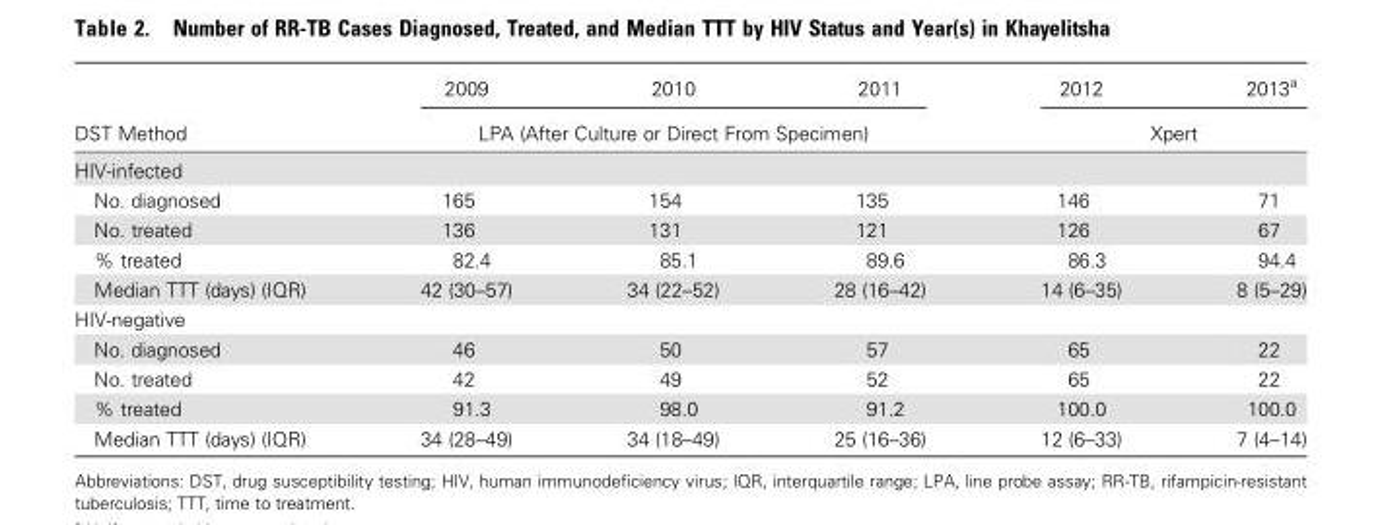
<table><thead><tr><td rowspan="2">DST Method</td><td>2009</td><td>2010</td><td>2011</td><td>2012</td><td>2013<sup>a</sup></td></tr><tr><td colspan="3">LPA (After Culture or Direct From Specimen)</td><td colspan="2">Xpert</td></tr></thead><tbody><tr><td colspan="6">HIV-infected</td></tr><tr><td>No. diagnosed</td><td>165</td><td>154</td><td>135</td><td>146</td><td>71</td></tr><tr><td>No. treated</td><td>136</td><td>131</td><td>121</td><td>126</td><td>67</td></tr><tr><td>% treated</td><td>82.4</td><td>85.1</td><td>89.6</td><td>86.3</td><td>94.4</td></tr><tr><td>Median TTT (days) (IQR)</td><td>42 (30–57)</td><td>34 (22–52)</td><td>28 (16–42)</td><td>14 (6–35)</td><td>8 (5–29)</td></tr><tr><td colspan="6">HIV-negative</td></tr><tr><td>No. diagnosed</td><td>46</td><td>50</td><td>57</td><td>65</td><td>22</td></tr><tr><td>No. treated</td><td>42</td><td>49</td><td>52</td><td>65</td><td>22</td></tr><tr><td>% treated</td><td>91.3</td><td>98.0</td><td>91.2</td><td>100.0</td><td>100.0</td></tr><tr><td>Median TTT (days) (IQR)</td><td>34 (28–49)</td><td>34 (18–49)</td><td>25 (16–36)</td><td>12 (6–33)</td><td>7 (4–14)</td></tr></tbody></table>